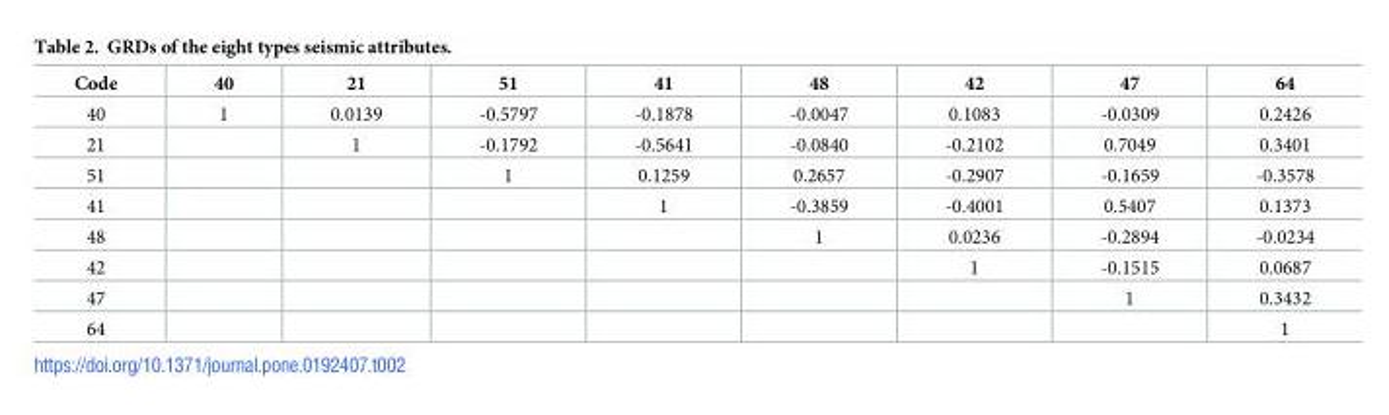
<table><thead><tr><td>Code</td><td>40</td><td>21</td><td>51</td><td>41</td><td>48</td><td>42</td><td>47</td><td>64</td></tr></thead><tbody><tr><td>40</td><td>1</td><td>0.0139</td><td>-0.5797</td><td>-0.1878</td><td>-0.0047</td><td>0.1083</td><td>-0.0309</td><td>0.2426</td></tr><tr><td>21</td><td></td><td>1</td><td>-0.1792</td><td>-0.5641</td><td>-0.0840</td><td>-0.2102</td><td>0.7049</td><td>0.3401</td></tr><tr><td>51</td><td></td><td></td><td>1</td><td>0.1259</td><td>0.2657</td><td>-0.2907</td><td>-0.1659</td><td>-0.3578</td></tr><tr><td>41</td><td></td><td></td><td></td><td>1</td><td>-0.3859</td><td>-0.4001</td><td>0.5407</td><td>0.1373</td></tr><tr><td>48</td><td></td><td></td><td></td><td></td><td>1</td><td>0.0236</td><td>-0.2894</td><td>-0.0234</td></tr><tr><td>42</td><td></td><td></td><td></td><td></td><td></td><td>1</td><td>-0.1515</td><td>0.0687</td></tr><tr><td>47</td><td></td><td></td><td></td><td></td><td></td><td></td><td>1</td><td>0.3432</td></tr><tr><td>64</td><td></td><td></td><td></td><td></td><td></td><td></td><td></td><td>1</td></tr></tbody></table>